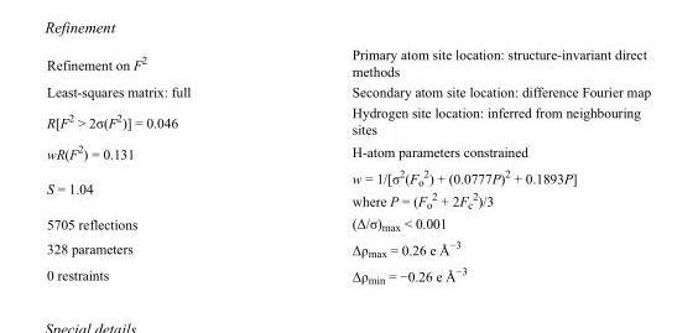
<table><tbody><tr><td>Refinement on F<sup>2</sup></td><td>Primary atom site location: structure-invariant direct methods</td></tr><tr><td>Least-squares matrix: full</td><td>Secondary atom site location: difference Fourier map</td></tr><tr><td>R[F<sup>2</sup> &gt; 2σ(F<sup>2</sup>)] = 0.046</td><td>Hydrogen site location: inferred from neighbouring sites</td></tr><tr><td>wR(F<sup>2</sup>) = 0.131</td><td>H-atom parameters constrained</td></tr><tr><td>S = 1.04</td><td>w = 1/[σ<sup>2</sup>(F<sub>o</sub> <sup>2</sup>) + (0.0777P)<sup>2</sup> + 0.1893P] where P = (F<sub>o</sub> <sup>2</sup> + 2F<sub>c</sub> <sup>2</sup>)/3</td></tr><tr><td>5705 reflections</td><td>(Δ/σ)<sub>max</sub> &lt; 0.001</td></tr><tr><td>328 parameters</td><td>Δρ<sub>max</sub> = 0.26 e Å<sup>−3</sup></td></tr><tr><td>0 restraints</td><td>Δρ<sub>min</sub> = −0.26 e Å<sup>−3</sup></td></tr></tbody></table>